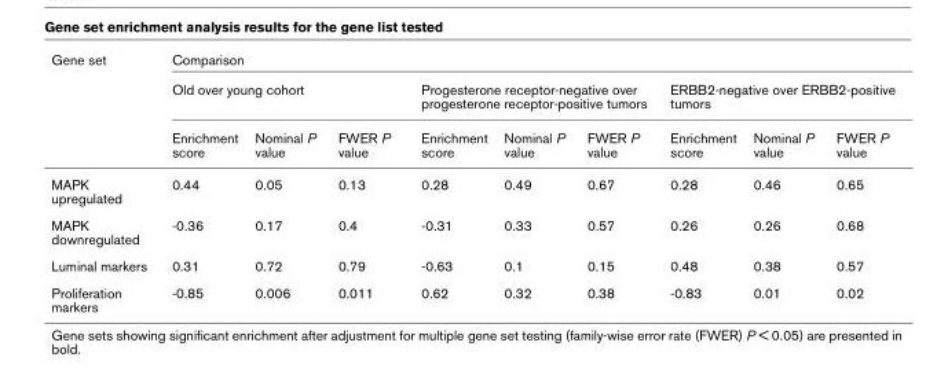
<table><thead><tr><td rowspan="3">Gene set</td><td colspan="9">Comparison</td></tr><tr><td colspan="3">Old over young cohort</td><td colspan="3">Progesterone receptor-negative over progesterone receptor-positive tumors</td><td colspan="3">ERBB2-negative over ERBB2-positive tumors</td></tr><tr><td>Enrichment score</td><td>Nominal P value</td><td>FWER P value</td><td>Enrichment score</td><td>Nominal P value</td><td>FWER P value</td><td>Enrichment score</td><td>Nominal P value</td><td>FWER P value</td></tr></thead><tbody><tr><td>MAPK upregulated</td><td>0.44</td><td>0.05</td><td>0.13</td><td>0.28</td><td>0.49</td><td>0.67</td><td>0.28</td><td>0.46</td><td>0.65</td></tr><tr><td>MAPK downregulated</td><td>-0.36</td><td>0.17</td><td>0.4</td><td>-0.31</td><td>0.33</td><td>0.57</td><td>0.26</td><td>0.26</td><td>0.68</td></tr><tr><td>Luminal markers</td><td>0.31</td><td>0.72</td><td>0.79</td><td>-0.63</td><td>0.1</td><td>0.15</td><td>0.48</td><td>0.38</td><td>0.57</td></tr><tr><td>Proliferation markers</td><td>-0.85</td><td>0.006</td><td>0.011</td><td>0.62</td><td>0.32</td><td>0.38</td><td>-0.83</td><td>0.01</td><td>0.02</td></tr></tbody></table>